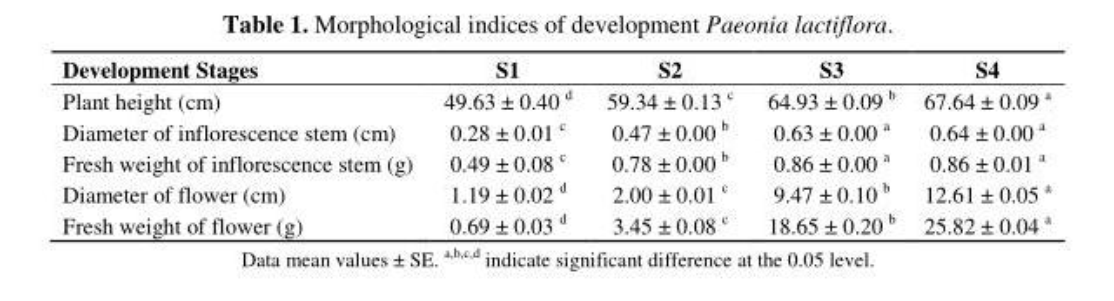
<table><thead><tr><td>Development Stages</td><td>S1</td><td>S2</td><td>S3</td><td>S4</td></tr></thead><tbody><tr><td>Plant height (cm)</td><td>49.63 ± 0.40 d</td><td>59.34 ± 0.13 c</td><td>64.93 ± 0.09 b</td><td>67.64 ± 0.09 a</td></tr><tr><td>Diameter of inflorescence stem (cm)</td><td>0.28 ± 0.01 c</td><td>0.47 ± 0.00 b</td><td>0.63 ± 0.00 a</td><td>0.64 ± 0.00 a</td></tr><tr><td>Fresh weight of inflorescence stem (g)</td><td>0.49 ± 0.08 c</td><td>0.78 ± 0.00 b</td><td>0.86 ± 0.00 a</td><td>0.86 ± 0.01 a</td></tr><tr><td>Diameter of flower (cm)</td><td>1.19 ± 0.02 d</td><td>2.00 ± 0.01 c</td><td>9.47 ± 0.10 b</td><td>12.61 ± 0.05 a</td></tr><tr><td>Fresh weight of flower (g)</td><td>0.69 ± 0.03 d</td><td>3.45 ± 0.08 c</td><td>18.65 ± 0.20 b</td><td>25.82 ± 0.04 a</td></tr></tbody></table>